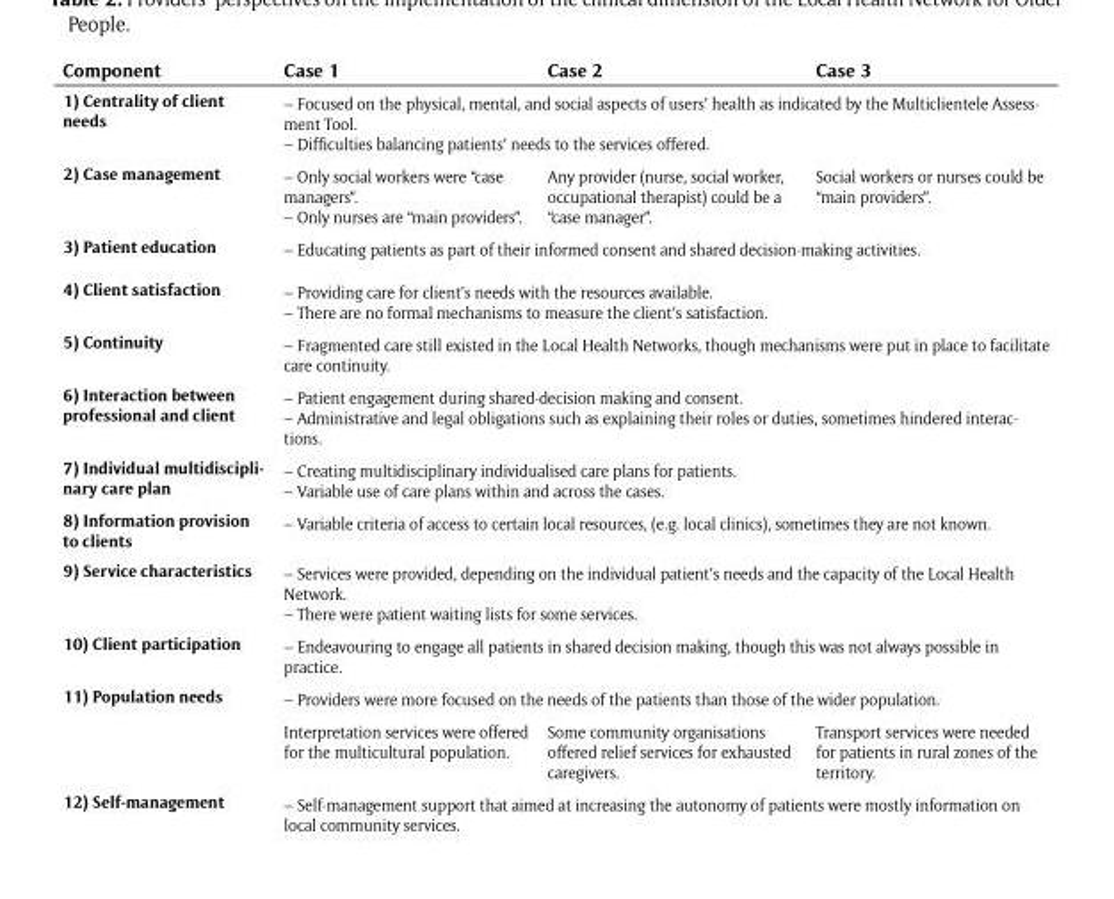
<table><thead><tr><td>Component</td><td>Case 1</td><td>Case 2</td><td>Case 3</td></tr></thead><tbody><tr><td>1) Centrality of client needs</td><td colspan="3">– Focused on the physical, mental, and social aspects of users’ health as indicated by the Multiclientele Assess- ment Tool. – Difficulties balancing patients’ needs to the services offered.</td></tr><tr><td>2) Case management</td><td>– Only social workers were “case managers”. – Only nurses are “main providers”.</td><td>Any provider (nurse, social worker, occupational therapist) could be a “case manager”.</td><td>Social workers or nurses could be “main providers”.</td></tr><tr><td>3) Patient education</td><td colspan="3">– Educating patients as part of their informed consent and shared decision-making activities.</td></tr><tr><td>4) Client satisfaction</td><td colspan="3">– Providing care for client’s needs with the resources available. – There are no formal mechanisms to measure the client’s satisfaction.</td></tr><tr><td>5) Continuity</td><td colspan="3">– Fragmented care still existed in the Local Health Networks, though mechanisms were put in place to facilitate care continuity.</td></tr><tr><td>6) Interaction between professional and client</td><td colspan="3">– Patient engagement during shared-decision making and consent. – Administrative and legal obligations such as explaining their roles or duties, sometimes hindered interac- tions.</td></tr><tr><td>7) Individual multidiscipli- nary care plan</td><td colspan="3">– Creating multidisciplinary individualised care plans for patients. – Variable use of care plans within and across the cases.</td></tr><tr><td>8) Information provision to clients</td><td colspan="3">– Variable criteria of access to certain local resources, (e.g. local clinics), sometimes they are not known.</td></tr><tr><td>9) Service characteristics</td><td colspan="3">– Services were provided, depending on the individual patient’s needs and the capacity of the Local Health Network. – There were patient waiting lists for some services.</td></tr><tr><td>10) Client participation</td><td colspan="3">– Endeavouring to engage all patients in shared decision making, though this was not always possible in practice.</td></tr><tr><td rowspan="2">11) Population needs</td><td colspan="3">– Providers were more focused on the needs of the patients than those of the wider population.</td></tr><tr><td>Interpretation services were offered for the multicultural population.</td><td>Some community organisations offered relief services for exhausted caregivers.</td><td>Transport services were needed for patients in rural zones of the territory.</td></tr><tr><td>12) Self-management</td><td colspan="3">– Self-management support that aimed at increasing the autonomy of patients were mostly information on local community services.</td></tr></tbody></table>